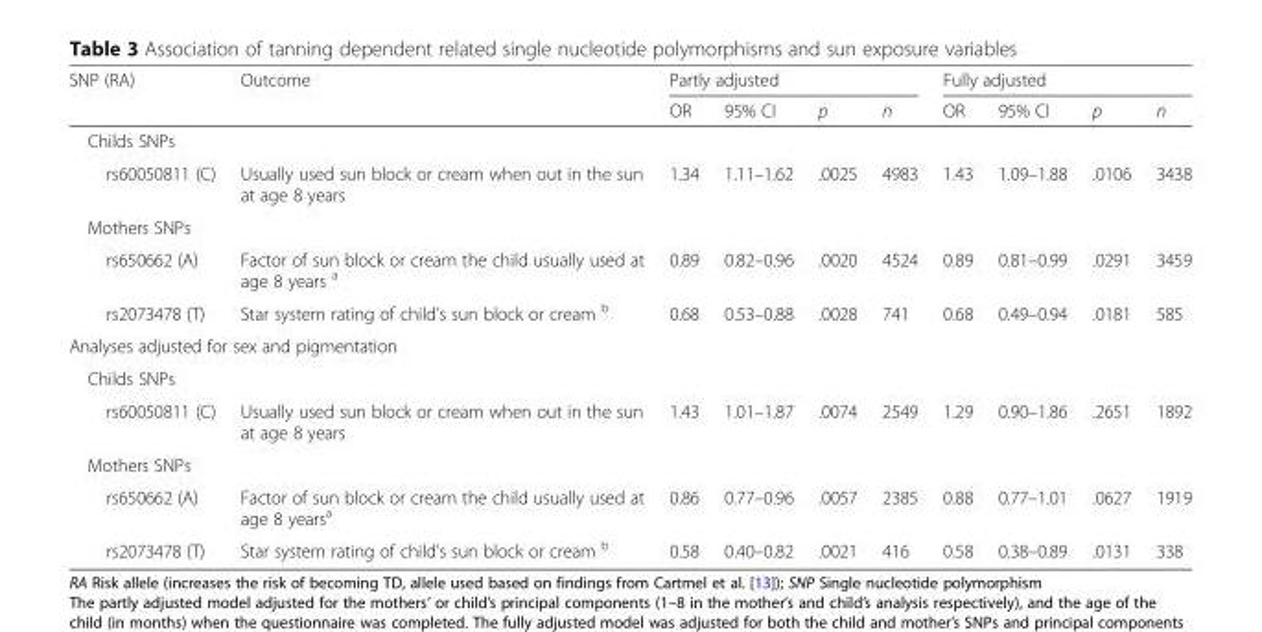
<table><thead><tr><td rowspan="2">SNP (RA)</td><td rowspan="2">Outcome</td><td colspan="4">Partly adjusted</td><td colspan="4">Fully adjusted</td></tr><tr><td>OR</td><td>95% CI</td><td>p</td><td>n</td><td>OR</td><td>95% CI</td><td>p</td><td>n</td></tr></thead><tbody><tr><td colspan="10">Childs SNPs</td></tr><tr><td>rs60050811 (C)</td><td>Usually used sun block or cream when out in the sun at age 8 years</td><td>1.34</td><td>1.11–1.62</td><td>.0025</td><td>4983</td><td>1.43</td><td>1.09–1.88</td><td>.0106</td><td>3438</td></tr><tr><td colspan="10">Mothers SNPs</td></tr><tr><td>rs650662 (A)</td><td>Factor of sun block or cream the child usually used at age 8 years <sup>a</sup></td><td>0.89</td><td>0.82–0.96</td><td>.0020</td><td>4524</td><td>0.89</td><td>0.81–0.99</td><td>.0291</td><td>3459</td></tr><tr><td>rs2073478 (T)</td><td>Star system rating of child’s sun block or cream <sup>b</sup></td><td>0.68</td><td>0.53–0.88</td><td>.0028</td><td>741</td><td>0.68</td><td>0.49–0.94</td><td>.0181</td><td>585</td></tr><tr><td colspan="10">Analyses adjusted for sex and pigmentation</td></tr><tr><td colspan="10">Childs SNPs</td></tr><tr><td>rs60050811 (C)</td><td>Usually used sun block or cream when out in the sun at age 8 years</td><td>1.43</td><td>1.01–1.87</td><td>.0074</td><td>2549</td><td>1.29</td><td>0.90–1.86</td><td>.2651</td><td>1892</td></tr><tr><td colspan="10">Mothers SNPs</td></tr><tr><td>rs650662 (A)</td><td>Factor of sun block or cream the child usually used at age 8 years<sup>a</sup></td><td>0.86</td><td>0.77–0.96</td><td>.0057</td><td>2385</td><td>0.88</td><td>0.77–1.01</td><td>.0627</td><td>1919</td></tr><tr><td>rs2073478 (T)</td><td>Star system rating of child’s sun block or cream <sup>b</sup></td><td>0.58</td><td>0.40–0.82</td><td>.0021</td><td>416</td><td>0.58</td><td>0.38–0.89</td><td>.0131</td><td>338</td></tr></tbody></table>